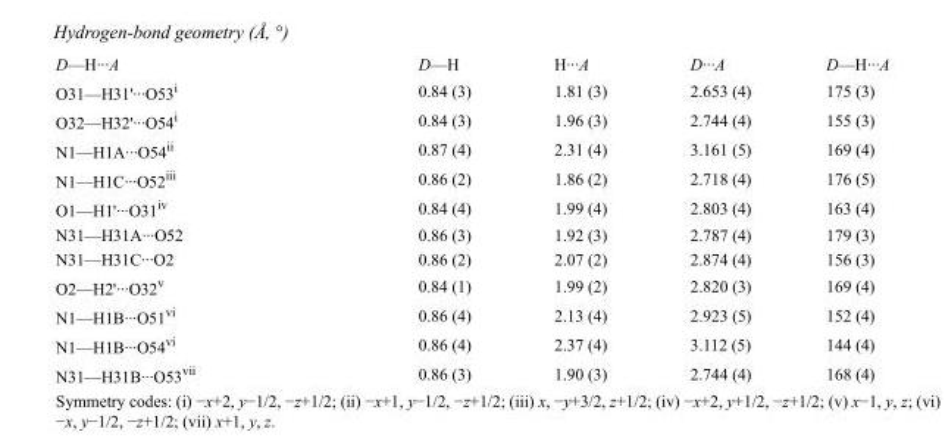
<table><tbody><tr><td>D—H···A</td><td>D—H</td><td>H···A</td><td>D···A</td><td>D—H···A</td></tr><tr><td>O31—H31&#x27;···O53<sup>i</sup></td><td>0.84 (3)</td><td>1.81 (3)</td><td>2.653 (4)</td><td>175 (3)</td></tr><tr><td>O32—H32&#x27;···O54<sup>i</sup></td><td>0.84 (3)</td><td>1.96 (3)</td><td>2.744 (4)</td><td>155 (3)</td></tr><tr><td>N1—H1A···O54<sup>ii</sup></td><td>0.87 (4)</td><td>2.31 (4)</td><td>3.161 (5)</td><td>169 (4)</td></tr><tr><td>N1—H1C···O52<sup>iii</sup></td><td>0.86 (2)</td><td>1.86 (2)</td><td>2.718 (4)</td><td>176 (5)</td></tr><tr><td>O1—H1&#x27;···O31<sup>iv</sup></td><td>0.84 (4)</td><td>1.99 (4)</td><td>2.803 (4)</td><td>163 (4)</td></tr><tr><td>N31—H31A···O52</td><td>0.86 (3)</td><td>1.92 (3)</td><td>2.787 (4)</td><td>179 (3)</td></tr><tr><td>N31—H31C···O2</td><td>0.86 (2)</td><td>2.07 (2)</td><td>2.874 (4)</td><td>156 (3)</td></tr><tr><td>O2—H2&#x27;···O32<sup>v</sup></td><td>0.84 (1)</td><td>1.99 (2)</td><td>2.820 (3)</td><td>169 (4)</td></tr><tr><td>N1—H1B···O51<sup>vi</sup></td><td>0.86 (4)</td><td>2.13 (4)</td><td>2.923 (5)</td><td>152 (4)</td></tr><tr><td>N1—H1B···O54<sup>vi</sup></td><td>0.86 (4)</td><td>2.37 (4)</td><td>3.112 (5)</td><td>144 (4)</td></tr><tr><td>N31—H31B···O53<sup>vii</sup></td><td>0.86 (3)</td><td>1.90 (3)</td><td>2.744 (4)</td><td>168 (4)</td></tr></tbody></table>